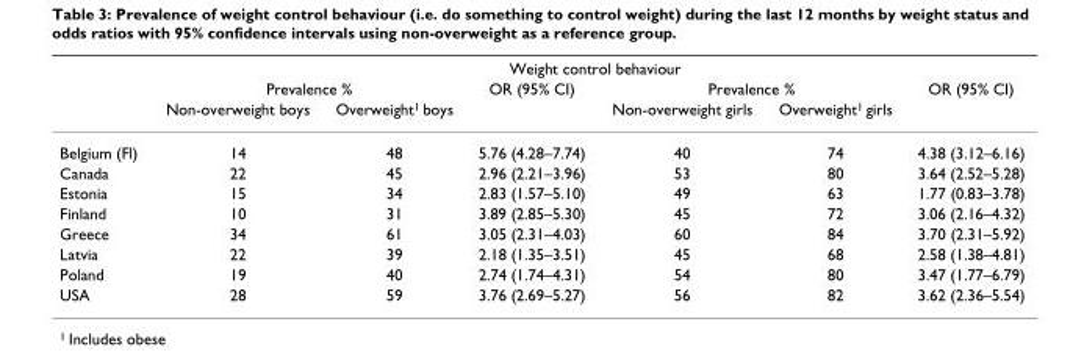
<table><thead><tr><td rowspan="3"></td><td colspan="6">Weight control behaviour</td></tr><tr><td colspan="2">Prevalence %</td><td rowspan="2">OR (95% CI)</td><td colspan="2">Prevalence %</td><td rowspan="2">OR (95% CI)</td></tr><tr><td>Non-overweight boys</td><td>Overweight<sup>1</sup> boys</td><td>Non-overweight girls</td><td>Overweight<sup>1</sup> girls</td></tr></thead><tbody><tr><td>Belgium (Fl)</td><td>14</td><td>48</td><td>5.76 (4.28–7.74)</td><td>40</td><td>74</td><td>4.38 (3.12–6.16)</td></tr><tr><td>Canada</td><td>22</td><td>45</td><td>2.96 (2.21–3.96)</td><td>53</td><td>80</td><td>3.64 (2.52–5.28)</td></tr><tr><td>Estonia</td><td>15</td><td>34</td><td>2.83 (1.57–5.10)</td><td>49</td><td>63</td><td>1.77 (0.83–3.78)</td></tr><tr><td>Finland</td><td>10</td><td>31</td><td>3.89 (2.85–5.30)</td><td>45</td><td>72</td><td>3.06 (2.16–4.32)</td></tr><tr><td>Greece</td><td>34</td><td>61</td><td>3.05 (2.31–4.03)</td><td>60</td><td>84</td><td>3.70 (2.31–5.92)</td></tr><tr><td>Latvia</td><td>22</td><td>39</td><td>2.18 (1.35–3.51)</td><td>45</td><td>68</td><td>2.58 (1.38–4.81)</td></tr><tr><td>Poland</td><td>19</td><td>40</td><td>2.74 (1.74–4.31)</td><td>54</td><td>80</td><td>3.47 (1.77–6.79)</td></tr><tr><td>USA</td><td>28</td><td>59</td><td>3.76 (2.69–5.27)</td><td>56</td><td>82</td><td>3.62 (2.36–5.54)</td></tr></tbody></table>